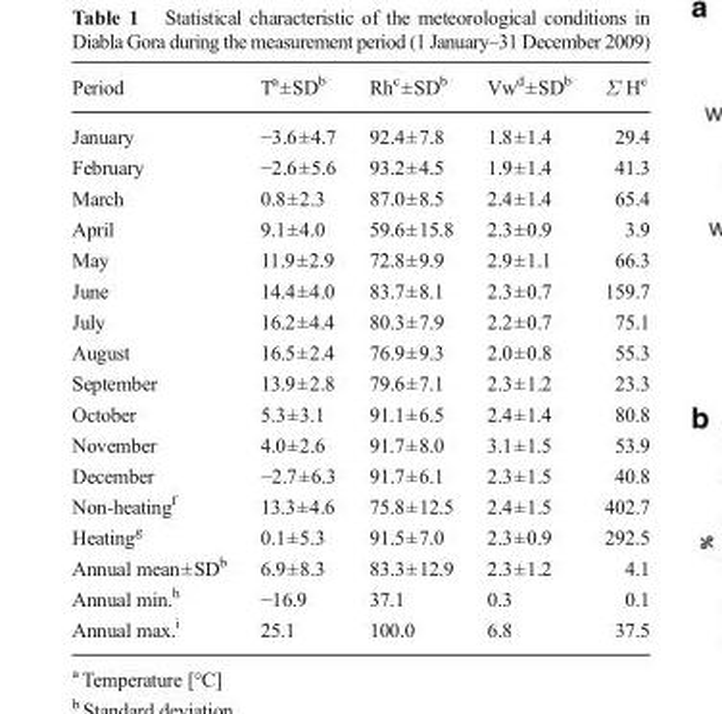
<table><thead><tr><td>Period</td><td>T<sup>a</sup>±SD<sup>b</sup></td><td>Rh<sup>c</sup>±SD<sup>b</sup></td><td>Vw<sup>d</sup>±SD<sup>b</sup></td><td>Σ H<sup>e</sup></td></tr></thead><tbody><tr><td>January</td><td>−3.6±4.7</td><td>92.4±7.8</td><td>1.8±1.4</td><td>29.4</td></tr><tr><td>February</td><td>−2.6±5.6</td><td>93.2±4.5</td><td>1.9±1.4</td><td>41.3</td></tr><tr><td>March</td><td>0.8±2.3</td><td>87.0±8.5</td><td>2.4±1.4</td><td>65.4</td></tr><tr><td>April</td><td>9.1±4.0</td><td>59.6±15.8</td><td>2.3±0.9</td><td>3.9</td></tr><tr><td>May</td><td>11.9±2.9</td><td>72.8±9.9</td><td>2.9±1.1</td><td>66.3</td></tr><tr><td>June</td><td>14.4±4.0</td><td>83.7±8.1</td><td>2.3±0.7</td><td>159.7</td></tr><tr><td>July</td><td>16.2±4.4</td><td>80.3±7.9</td><td>2.2±0.7</td><td>75.1</td></tr><tr><td>August</td><td>16.5±2.4</td><td>76.9±9.3</td><td>2.0±0.8</td><td>55.3</td></tr><tr><td>September</td><td>13.9±2.8</td><td>79.6±7.1</td><td>2.3±1.2</td><td>23.3</td></tr><tr><td>October</td><td>5.3±3.1</td><td>91.1±6.5</td><td>2.4±1.4</td><td>80.8</td></tr><tr><td>November</td><td>4.0±2.6</td><td>91.7±8.0</td><td>3.1±1.5</td><td>53.9</td></tr><tr><td>December</td><td>−2.7±6.3</td><td>91.7±6.1</td><td>2.3±1.5</td><td>40.8</td></tr><tr><td>Non-heating<sup>f</sup></td><td>13.3±4.6</td><td>75.8±12.5</td><td>2.4±1.5</td><td>402.7</td></tr><tr><td>Heating<sup>g</sup></td><td>0.1±5.3</td><td>91.5±7.0</td><td>2.3±0.9</td><td>292.5</td></tr><tr><td>Annual mean±SD<sup>b</sup></td><td>6.9±8.3</td><td>83.3±12.9</td><td>2.3±1.2</td><td>4.1</td></tr><tr><td>Annual min.<sup>h</sup></td><td>−16.9</td><td>37.1</td><td>0.3</td><td>0.1</td></tr><tr><td>Annual max.<sup>i</sup></td><td>25.1</td><td>100.0</td><td>6.8</td><td>37.5</td></tr></tbody></table>